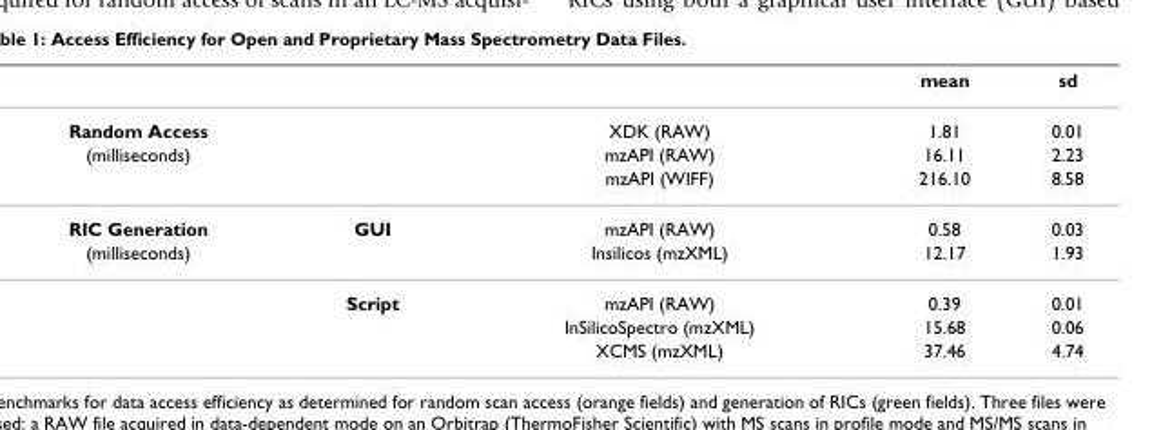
<table><thead><tr><td></td><td></td><td></td><td>mean</td><td>sd</td></tr></thead><tbody><tr><td>Random Access</td><td></td><td>XDK (RAW)</td><td>1.81</td><td>0.01</td></tr><tr><td rowspan="2">(milliseconds)</td><td></td><td>mzAPI (RAW)</td><td>16.11</td><td>2.23</td></tr><tr><td></td><td>mzAPI (WIFF)</td><td>216.10</td><td>8.58</td></tr><tr><td>RIC Generation</td><td>GUI</td><td>mzAPI (RAW)</td><td>0.58</td><td>0.03</td></tr><tr><td rowspan="4">(milliseconds)</td><td></td><td>Insilicos (mzXML)</td><td>12.17</td><td>1.93</td></tr><tr><td>Script</td><td>mzAPI (RAW)</td><td>0.39</td><td>0.01</td></tr><tr><td></td><td>InSilicoSpectro (mzXML)</td><td>15.68</td><td>0.06</td></tr><tr><td></td><td>XCMS (mzXML)</td><td>37.46</td><td>4.74</td></tr></tbody></table>